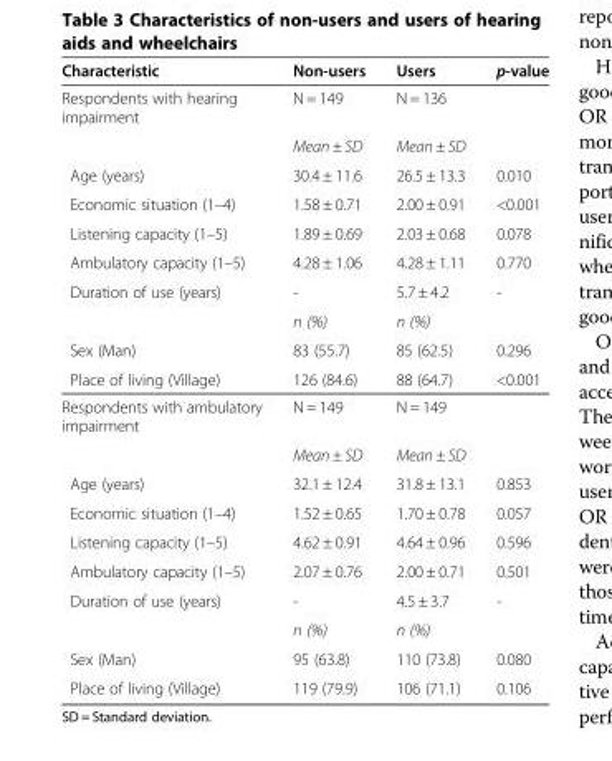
<table><thead><tr><td>Characteristic</td><td>Non-users</td><td>Users</td><td>p-value</td></tr></thead><tbody><tr><td rowspan="2">Respondents with hearing impairment</td><td>N = 149</td><td>N = 136</td><td></td></tr><tr><td>Mean ± SD</td><td>Mean ± SD</td><td></td></tr><tr><td>Age (years)</td><td>30.4 ± 11.6</td><td>26.5 ± 13.3</td><td>0.010</td></tr><tr><td>Economic situation (1–4)</td><td>1.58 ± 0.71</td><td>2.00 ± 0.91</td><td>&lt;0.001</td></tr><tr><td>Listening capacity (1–5)</td><td>1.89 ± 0.69</td><td>2.03 ± 0.68</td><td>0.078</td></tr><tr><td>Ambulatory capacity (1–5)</td><td>4.28 ± 1.06</td><td>4.28 ± 1.11</td><td>0.770</td></tr><tr><td rowspan="2">Duration of use (years)</td><td>-</td><td>5.7 ± 4.2</td><td>-</td></tr><tr><td>n (%)</td><td>n (%)</td><td></td></tr><tr><td>Sex (Man)</td><td>83 (55.7)</td><td>85 (62.5)</td><td>0.296</td></tr><tr><td>Place of living (Village)</td><td>126 (84.6)</td><td>88 (64.7)</td><td>&lt;0.001</td></tr><tr><td rowspan="2">Respondents with ambulatory impairment</td><td>N = 149</td><td>N = 149</td><td></td></tr><tr><td>Mean ± SD</td><td>Mean ± SD</td><td></td></tr><tr><td>Age (years)</td><td>32.1 ± 12.4</td><td>31.8 ± 13.1</td><td>0.853</td></tr><tr><td>Economic situation (1–4)</td><td>1.52 ± 0.65</td><td>1.70 ± 0.78</td><td>0.057</td></tr><tr><td>Listening capacity (1–5)</td><td>4.62 ± 0.91</td><td>4.64 ± 0.96</td><td>0.596</td></tr><tr><td>Ambulatory capacity (1–5)</td><td>2.07 ± 0.76</td><td>2.00 ± 0.71</td><td>0.501</td></tr><tr><td rowspan="2">Duration of use (years)</td><td>-</td><td>4.5 ± 3.7</td><td>-</td></tr><tr><td>n (%)</td><td>n (%)</td><td></td></tr><tr><td>Sex (Man)</td><td>95 (63.8)</td><td>110 (73.8)</td><td>0.080</td></tr><tr><td>Place of living (Village)</td><td>119 (79.9)</td><td>106 (71.1)</td><td>0.106</td></tr></tbody></table>